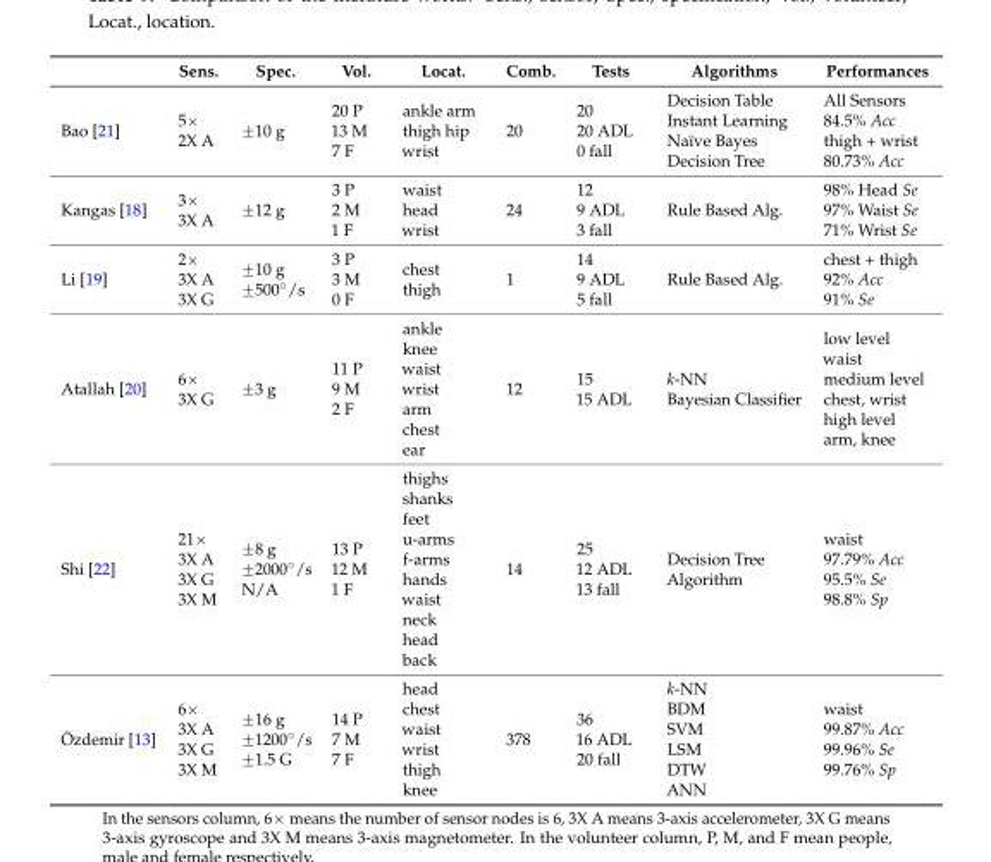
<table><thead><tr><td></td><td>Sens.</td><td>Spec.</td><td>Vol.</td><td>Locat.</td><td>Comb.</td><td>Tests</td><td>Algorithms</td><td>Performances</td></tr></thead><tbody><tr><td>Bao [21]</td><td>5ˆ 2X A</td><td>˘10 g</td><td>20 P 13 M 7 F</td><td>ankle arm thigh hip wrist</td><td>20</td><td>20 20 ADL 0 fall</td><td>Decision Table Instant Learning Naïve Bayes Decision Tree</td><td>All Sensors 84.5% Acc thigh + wrist 80.73% Acc</td></tr><tr><td>Kangas [18]</td><td>3ˆ 3X A</td><td>˘12 g</td><td>3 P 2 M 1 F</td><td>waist head wrist</td><td>24</td><td>12 9 ADL 3 fall</td><td>Rule Based Alg.</td><td>98% Head Se 97% Waist Se 71% Wrist Se</td></tr><tr><td>Li [19]</td><td>2ˆ 3X A 3X G</td><td>˘10 g ˘500˝/s</td><td>3 P 3 M 0 F</td><td>chest thigh</td><td>1</td><td>14 9 ADL 5 fall</td><td>Rule Based Alg.</td><td>chest + thigh 92% Acc 91% Se</td></tr><tr><td>Atallah [20]</td><td>6ˆ 3X G</td><td>˘3 g</td><td>11 P 9 M 2 F</td><td>ankle knee waist wrist arm chest ear</td><td>12</td><td>15 15 ADL</td><td>k-NN Bayesian Classifier</td><td>low level waist medium level chest, wrist high level arm, knee</td></tr><tr><td>Shi [22]</td><td>21ˆ 3X A 3X G 3X M</td><td>˘8 g ˘2000˝/s N/A</td><td>13 P 12 M 1 F</td><td>thighs shanks feet u-arms f-arms hands waist neck head back</td><td>14</td><td>25 12 ADL 13 fall</td><td>Decision Tree Algorithm</td><td>waist 97.79% Acc 95.5% Se 98.8% Sp</td></tr><tr><td>Özdemir [13]</td><td>6ˆ 3X A 3X G 3X M</td><td>˘16 g ˘1200˝/s ˘1.5 G</td><td>14 P 7 M 7 F</td><td>head chest waist wrist thigh knee</td><td>378</td><td>36 16 ADL 20 fall</td><td>k-NN BDM SVM LSM DTW ANN</td><td>waist 99.87% Acc 99.96% Se 99.76% Sp</td></tr></tbody></table>